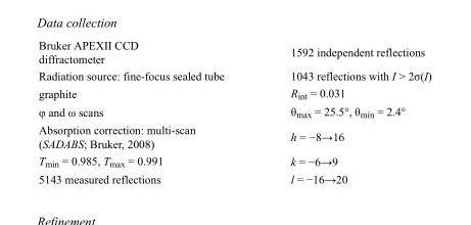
<table><tbody><tr><td>Bruker APEXII CCD diffractometer</td><td>1592 independent reflections</td></tr><tr><td>Radiation source: fine-focus sealed tube</td><td>1043 reflections with I &gt; 2σ(I)</td></tr><tr><td>graphite</td><td>R<sub>int</sub> = 0.031</td></tr><tr><td>φ and ω scans</td><td>θ<sub>max</sub> = 25.5°, θ<sub>min</sub> = 2.4°</td></tr><tr><td>Absorption correction: multi-scan (SADABS; Bruker, 2008)</td><td>h = −8→16</td></tr><tr><td>T<sub>min</sub> = 0.985, T<sub>max</sub> = 0.991</td><td>k = −6→9</td></tr><tr><td>5143 measured reflections</td><td>l = −16→20</td></tr></tbody></table>